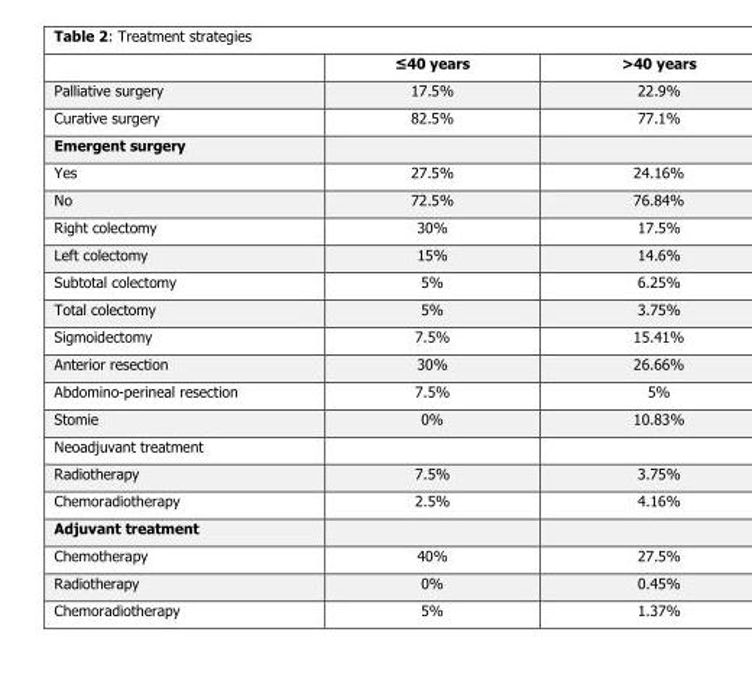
<table><thead><tr><td></td><td>≤40 years</td><td>&gt;40 years</td></tr></thead><tbody><tr><td>Palliative surgery</td><td>17.5%</td><td>22.9%</td></tr><tr><td>Curative surgery</td><td>82.5%</td><td>77.1%</td></tr><tr><td colspan="3">Emergent surgery</td></tr><tr><td>Yes</td><td>27.5%</td><td>24.16%</td></tr><tr><td>No</td><td>72.5%</td><td>76.84%</td></tr><tr><td>Right colectomy</td><td>30%</td><td>17.5%</td></tr><tr><td>Left colectomy</td><td>15%</td><td>14.6%</td></tr><tr><td>Subtotal colectomy</td><td>5%</td><td>6.25%</td></tr><tr><td>Total colectomy</td><td>5%</td><td>3.75%</td></tr><tr><td>Sigmoidectomy</td><td>7.5%</td><td>15.41%</td></tr><tr><td>Anterior resection</td><td>30%</td><td>26.66%</td></tr><tr><td>Abdomino-perineal resection</td><td>7.5%</td><td>5%</td></tr><tr><td>Stomie</td><td>0%</td><td>10.83%</td></tr><tr><td colspan="3">Neoadjuvant treatment</td></tr><tr><td>Radiotherapy</td><td>7.5%</td><td>3.75%</td></tr><tr><td>Chemoradiotherapy</td><td>2.5%</td><td>4.16%</td></tr><tr><td colspan="3">Adjuvant treatment</td></tr><tr><td>Chemotherapy</td><td>40%</td><td>27.5%</td></tr><tr><td>Radiotherapy</td><td>0%</td><td>0.45%</td></tr><tr><td>Chemoradiotherapy</td><td>5%</td><td>1.37%</td></tr></tbody></table>